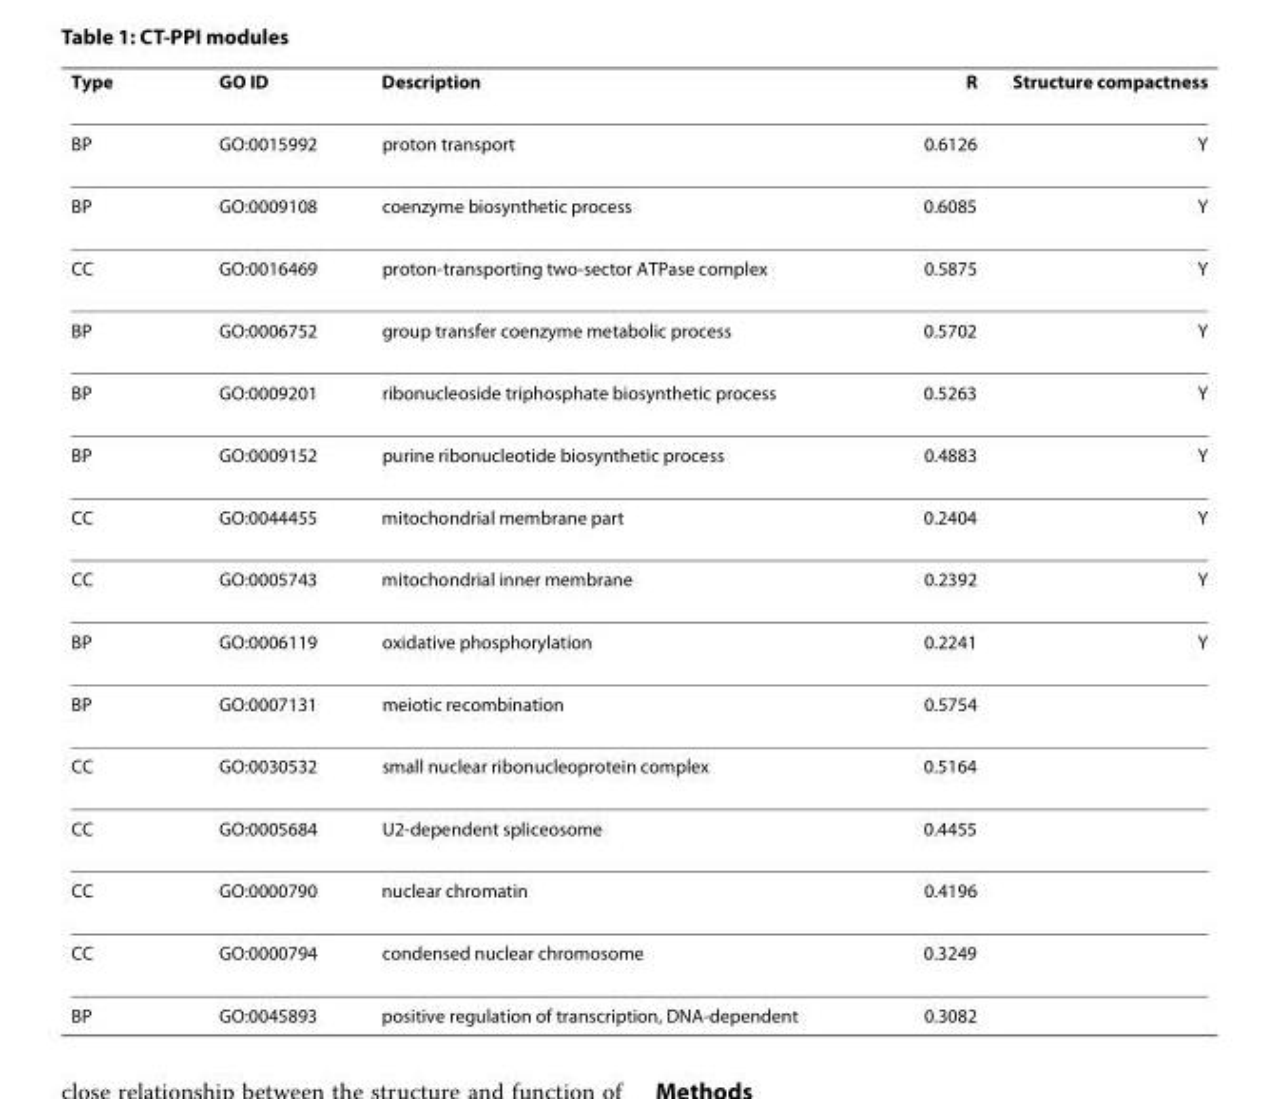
<table><thead><tr><td>Type</td><td>GO ID</td><td>Description</td><td>R</td><td>Structure compactness</td></tr></thead><tbody><tr><td>BP</td><td>GO:0015992</td><td>proton transport</td><td>0.6126</td><td>Y</td></tr><tr><td>BP</td><td>GO:0009108</td><td>coenzyme biosynthetic process</td><td>0.6085</td><td>Y</td></tr><tr><td>CC</td><td>GO:0016469</td><td>proton-transporting two-sector ATPase complex</td><td>0.5875</td><td>Y</td></tr><tr><td>BP</td><td>GO:0006752</td><td>group transfer coenzyme metabolic process</td><td>0.5702</td><td>Y</td></tr><tr><td>BP</td><td>GO:0009201</td><td>ribonucleoside triphosphate biosynthetic process</td><td>0.5263</td><td>Y</td></tr><tr><td>BP</td><td>GO:0009152</td><td>purine ribonucleotide biosynthetic process</td><td>0.4883</td><td>Y</td></tr><tr><td>CC</td><td>GO:0044455</td><td>mitochondrial membrane part</td><td>0.2404</td><td>Y</td></tr><tr><td>CC</td><td>GO:0005743</td><td>mitochondrial inner membrane</td><td>0.2392</td><td>Y</td></tr><tr><td>BP</td><td>GO:0006119</td><td>oxidative phosphorylation</td><td>0.2241</td><td>Y</td></tr><tr><td>BP</td><td>GO:0007131</td><td>meiotic recombination</td><td>0.5754</td><td></td></tr><tr><td>CC</td><td>GO:0030532</td><td>small nuclear ribonucleoprotein complex</td><td>0.5164</td><td></td></tr><tr><td>CC</td><td>GO:0005684</td><td>U2-dependent spliceosome</td><td>0.4455</td><td></td></tr><tr><td>CC</td><td>GO:0000790</td><td>nuclear chromatin</td><td>0.4196</td><td></td></tr><tr><td>CC</td><td>GO:0000794</td><td>condensed nuclear chromosome</td><td>0.3249</td><td></td></tr><tr><td>BP</td><td>GO:0045893</td><td>positive regulation of transcription, DNA-dependent</td><td>0.3082</td><td></td></tr></tbody></table>